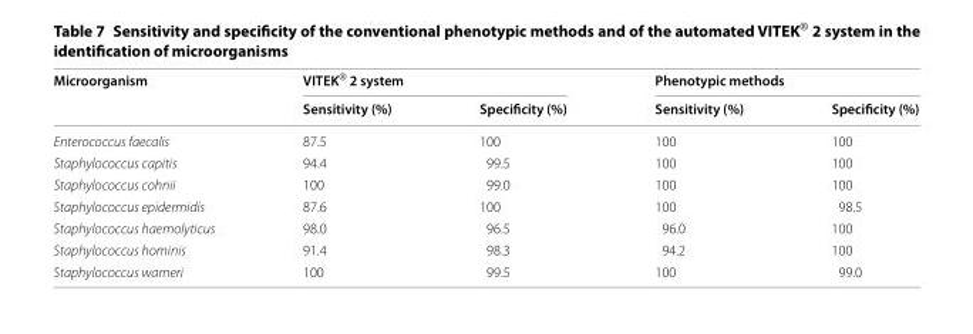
<table><thead><tr><td rowspan="2">Microorganism</td><td colspan="2">VITEK<sup>®</sup> 2 system</td><td colspan="2">Phenotypic methods</td></tr><tr><td>Sensitivity (%)</td><td>Specificity (%)</td><td>Sensitivity (%)</td><td>Specificity (%)</td></tr></thead><tbody><tr><td>Enterococcus faecalis</td><td>87.5</td><td>100</td><td>100</td><td>100</td></tr><tr><td>Staphylococcus capitis</td><td>94.4</td><td>99.5</td><td>100</td><td>100</td></tr><tr><td>Staphylococcus cohnii</td><td>100</td><td>99.0</td><td>100</td><td>100</td></tr><tr><td>Staphylococcus epidermidis</td><td>87.6</td><td>100</td><td>100</td><td>98.5</td></tr><tr><td>Staphylococcus haemolyticus</td><td>98.0</td><td>96.5</td><td>96.0</td><td>100</td></tr><tr><td>Staphylococcus hominis</td><td>91.4</td><td>98.3</td><td>94.2</td><td>100</td></tr><tr><td>Staphylococcus warneri</td><td>100</td><td>99.5</td><td>100</td><td>99.0</td></tr></tbody></table>